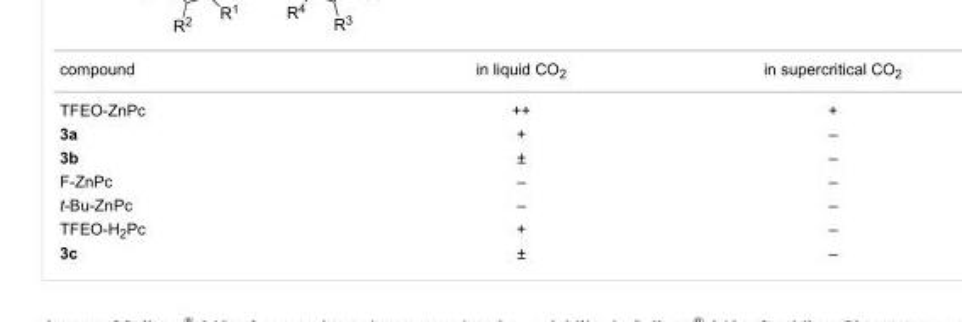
<table><tbody><tr><td>compound</td><td>in liquid CO<sub>2</sub></td><td>in supercritical CO<sub>2</sub></td></tr><tr><td>TFEO-ZnPc</td><td>++</td><td>+</td></tr><tr><td>3a</td><td>+</td><td>–</td></tr><tr><td>3b</td><td>±</td><td>–</td></tr><tr><td>F-ZnPc</td><td>–</td><td>–</td></tr><tr><td>t-Bu-ZnPc</td><td>–</td><td>–</td></tr><tr><td>TFEO-H<sub>2</sub>Pc</td><td>+</td><td>–</td></tr><tr><td>3c</td><td>±</td><td>–</td></tr></tbody></table>